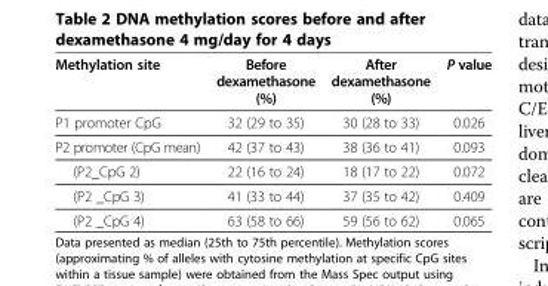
<table><thead><tr><td>Methylation site</td><td>Before dexamethasone (%)</td><td>After dexamethasone (%)</td><td>P value</td></tr></thead><tbody><tr><td>P1 promoter CpG</td><td>32 (29 to 35)</td><td>30 (28 to 33)</td><td>0.026</td></tr><tr><td>P2 promoter (CpG mean)</td><td>42 (37 to 43)</td><td>38 (36 to 41)</td><td>0.093</td></tr><tr><td>(P2_CpG 2)</td><td>22 (16 to 24)</td><td>18 (17 to 22)</td><td>0.072</td></tr><tr><td>(P2 _CpG 3)</td><td>41 (33 to 44)</td><td>37 (35 to 42)</td><td>0.409</td></tr><tr><td>(P2 _CpG 4)</td><td>63 (58 to 66)</td><td>59 (56 to 62)</td><td>0.065</td></tr></tbody></table>